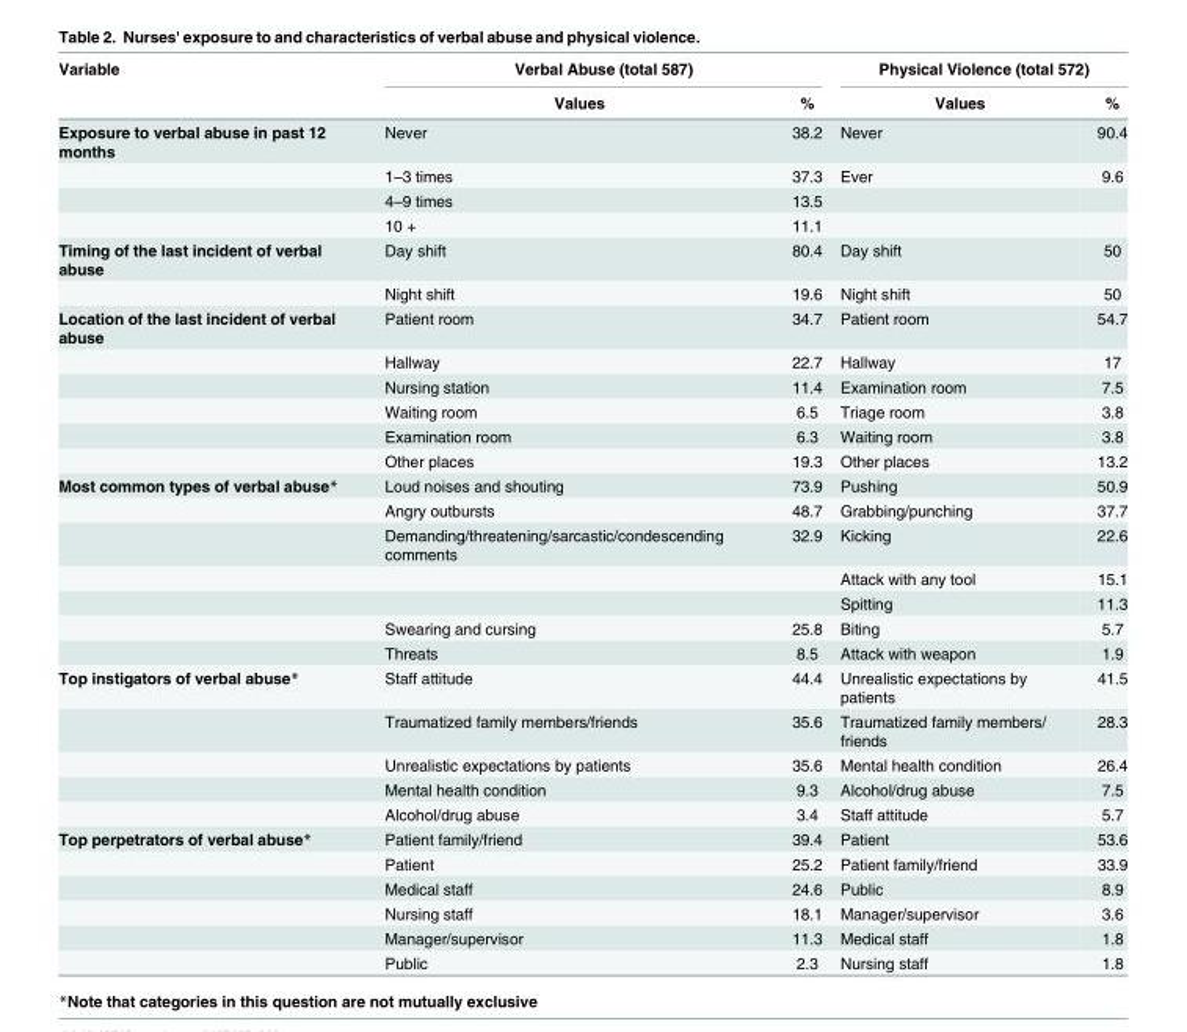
<table><thead><tr><td rowspan="2">Variable</td><td colspan="2">Verbal Abuse (total 587)</td><td colspan="2">Physical Violence (total 572)</td></tr><tr><td>Values</td><td>%</td><td>Values</td><td>%</td></tr></thead><tbody><tr><td rowspan="4">Exposure to verbal abuse in past 12 months</td><td>Never</td><td>38.2</td><td>Never</td><td>90.4</td></tr><tr><td>1–3 times</td><td>37.3</td><td>Ever</td><td>9.6</td></tr><tr><td>4–9 times</td><td>13.5</td><td></td><td></td></tr><tr><td>10 +</td><td>11.1</td><td></td><td></td></tr><tr><td rowspan="2">Timing of the last incident of verbal abuse</td><td>Day shift</td><td>80.4</td><td>Day shift</td><td>50</td></tr><tr><td>Night shift</td><td>19.6</td><td>Night shift</td><td>50</td></tr><tr><td rowspan="6">Location of the last incident of verbal abuse</td><td>Patient room</td><td>34.7</td><td>Patient room</td><td>54.7</td></tr><tr><td>Hallway</td><td>22.7</td><td>Hallway</td><td>17</td></tr><tr><td>Nursing station</td><td>11.4</td><td>Examination room</td><td>7.5</td></tr><tr><td>Waiting room</td><td>6.5</td><td>Triage room</td><td>3.8</td></tr><tr><td>Examination room</td><td>6.3</td><td>Waiting room</td><td>3.8</td></tr><tr><td>Other places</td><td>19.3</td><td>Other places</td><td>13.2</td></tr><tr><td rowspan="7">Most common types of verbal abuse*</td><td>Loud noises and shouting</td><td>73.9</td><td>Pushing</td><td>50.9</td></tr><tr><td>Angry outbursts</td><td>48.7</td><td>Grabbing/punching</td><td>37.7</td></tr><tr><td>Demanding/threatening/sarcastic/condescending comments</td><td>32.9</td><td>Kicking</td><td>22.6</td></tr><tr><td></td><td></td><td>Attack with any tool</td><td>15.1</td></tr><tr><td></td><td></td><td>Spitting</td><td>11.3</td></tr><tr><td>Swearing and cursing</td><td>25.8</td><td>Biting</td><td>5.7</td></tr><tr><td>Threats</td><td>8.5</td><td>Attack with weapon</td><td>1.9</td></tr><tr><td rowspan="5">Top instigators of verbal abuse*</td><td>Staff attitude</td><td>44.4</td><td>Unrealistic expectations by patients</td><td>41.5</td></tr><tr><td>Traumatized family members/friends</td><td>35.6</td><td>Traumatized family members/ friends</td><td>28.3</td></tr><tr><td>Unrealistic expectations by patients</td><td>35.6</td><td>Mental health condition</td><td>26.4</td></tr><tr><td>Mental health condition</td><td>9.3</td><td>Alcohol/drug abuse</td><td>7.5</td></tr><tr><td>Alcohol/drug abuse</td><td>3.4</td><td>Staff attitude</td><td>5.7</td></tr><tr><td rowspan="6">Top perpetrators of verbal abuse*</td><td>Patient family/friend</td><td>39.4</td><td>Patient</td><td>53.6</td></tr><tr><td>Patient</td><td>25.2</td><td>Patient family/friend</td><td>33.9</td></tr><tr><td>Medical staff</td><td>24.6</td><td>Public</td><td>8.9</td></tr><tr><td>Nursing staff</td><td>18.1</td><td>Manager/supervisor</td><td>3.6</td></tr><tr><td>Manager/supervisor</td><td>11.3</td><td>Medical staff</td><td>1.8</td></tr><tr><td>Public</td><td>2.3</td><td>Nursing staff</td><td>1.8</td></tr></tbody></table>